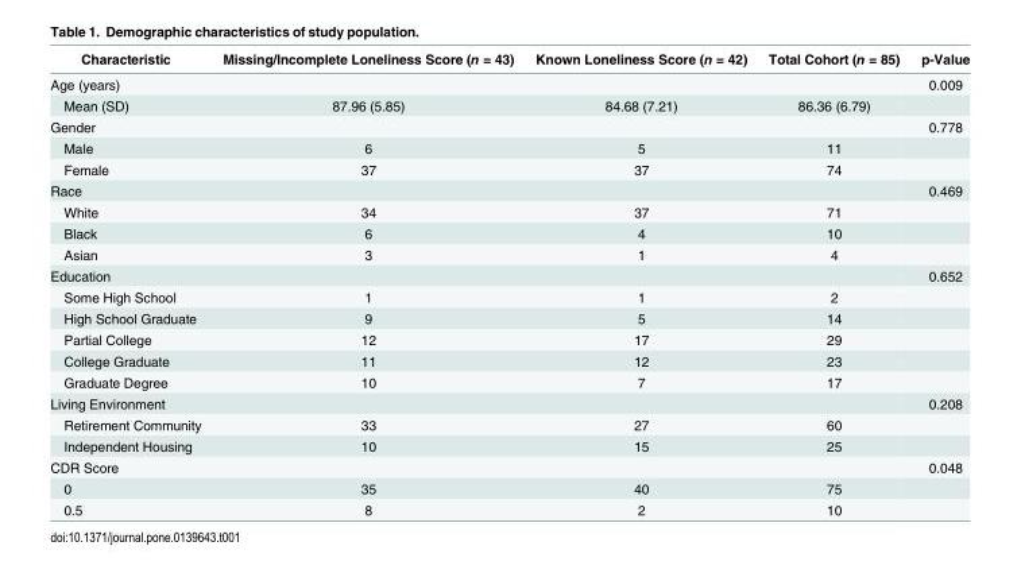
<table><thead><tr><td>Characteristic</td><td>Missing/Incomplete Loneliness Score (n = 43)</td><td>Known Loneliness Score (n = 42)</td><td>Total Cohort (n = 85)</td><td>p-Value</td></tr></thead><tbody><tr><td>Age (years)</td><td></td><td></td><td></td><td>0.009</td></tr><tr><td>Mean (SD)</td><td>87.96 (5.85)</td><td>84.68 (7.21)</td><td>86.36 (6.79)</td><td></td></tr><tr><td>Gender</td><td></td><td></td><td></td><td>0.778</td></tr><tr><td>Male</td><td>6</td><td>5</td><td>11</td><td></td></tr><tr><td>Female</td><td>37</td><td>37</td><td>74</td><td></td></tr><tr><td>Race</td><td></td><td></td><td></td><td>0.469</td></tr><tr><td>White</td><td>34</td><td>37</td><td>71</td><td></td></tr><tr><td>Black</td><td>6</td><td>4</td><td>10</td><td></td></tr><tr><td>Asian</td><td>3</td><td>1</td><td>4</td><td></td></tr><tr><td>Education</td><td></td><td></td><td></td><td>0.652</td></tr><tr><td>Some High School</td><td>1</td><td>1</td><td>2</td><td></td></tr><tr><td>High School Graduate</td><td>9</td><td>5</td><td>14</td><td></td></tr><tr><td>Partial College</td><td>12</td><td>17</td><td>29</td><td></td></tr><tr><td>College Graduate</td><td>11</td><td>12</td><td>23</td><td></td></tr><tr><td>Graduate Degree</td><td>10</td><td>7</td><td>17</td><td></td></tr><tr><td>Living Environment</td><td></td><td></td><td></td><td>0.208</td></tr><tr><td>Retirement Community</td><td>33</td><td>27</td><td>60</td><td></td></tr><tr><td>Independent Housing</td><td>10</td><td>15</td><td>25</td><td></td></tr><tr><td>CDR Score</td><td></td><td></td><td></td><td>0.048</td></tr><tr><td>0</td><td>35</td><td>40</td><td>75</td><td></td></tr><tr><td>0.5</td><td>8</td><td>2</td><td>10</td><td></td></tr></tbody></table>